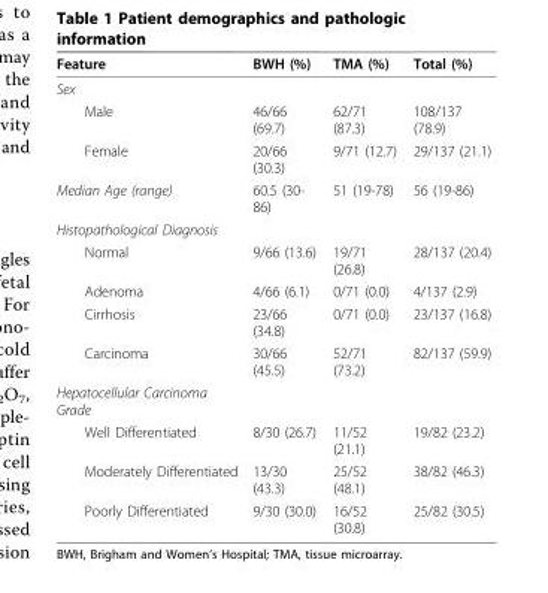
<table><thead><tr><td>Feature</td><td>BWH (%)</td><td>TMA (%)</td><td>Total (%)</td></tr></thead><tbody><tr><td colspan="4">Sex</td></tr><tr><td>Male</td><td>46/66 (69.7)</td><td>62/71 (87.3)</td><td>108/137 (78.9)</td></tr><tr><td>Female</td><td>20/66 (30.3)</td><td>9/71 (12.7)</td><td>29/137 (21.1)</td></tr><tr><td>Median Age (range)</td><td>60.5 (30- 86)</td><td>51 (19-78)</td><td>56 (19-86)</td></tr><tr><td colspan="4">Histopathological Diagnosis</td></tr><tr><td>Normal</td><td>9/66 (13.6)</td><td>19/71 (26.8)</td><td>28/137 (20.4)</td></tr><tr><td>Adenoma</td><td>4/66 (6.1)</td><td>0/71 (0.0)</td><td>4/137 (2.9)</td></tr><tr><td>Cirrhosis</td><td>23/66 (34.8)</td><td>0/71 (0.0)</td><td>23/137 (16.8)</td></tr><tr><td>Carcinoma</td><td>30/66 (45.5)</td><td>52/71 (73.2)</td><td>82/137 (59.9)</td></tr><tr><td colspan="4">Hepatocellular Carcinoma Grade</td></tr><tr><td>Well Differentiated</td><td>8/30 (26.7)</td><td>11/52 (21.1)</td><td>19/82 (23.2)</td></tr><tr><td>Moderately Differentiated</td><td>13/30 (43.3)</td><td>25/52 (48.1)</td><td>38/82 (46.3)</td></tr><tr><td>Poorly Differentiated</td><td>9/30 (30.0)</td><td>16/52 (30.8)</td><td>25/82 (30.5)</td></tr></tbody></table>